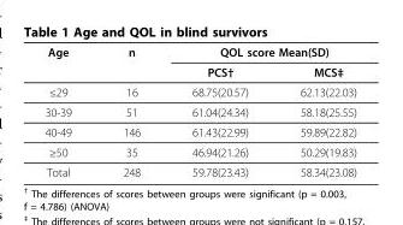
<table><thead><tr><td rowspan="2">Age</td><td rowspan="2">n</td><td colspan="2">QOL score Mean(SD)</td></tr><tr><td>PCS†</td><td>MCS‡</td></tr></thead><tbody><tr><td>≤29</td><td>16</td><td>68.75(20.57)</td><td>62.13(22.03)</td></tr><tr><td>30-39</td><td>51</td><td>61.04(24.34)</td><td>58.18(25.55)</td></tr><tr><td>40-49</td><td>146</td><td>61.43(22.99)</td><td>59.89(22.82)</td></tr><tr><td>≥50</td><td>35</td><td>46.94(21.26)</td><td>50.29(19.83)</td></tr><tr><td>Total</td><td>248</td><td>59.78(23.43)</td><td>58.34(23.08)</td></tr></tbody></table>